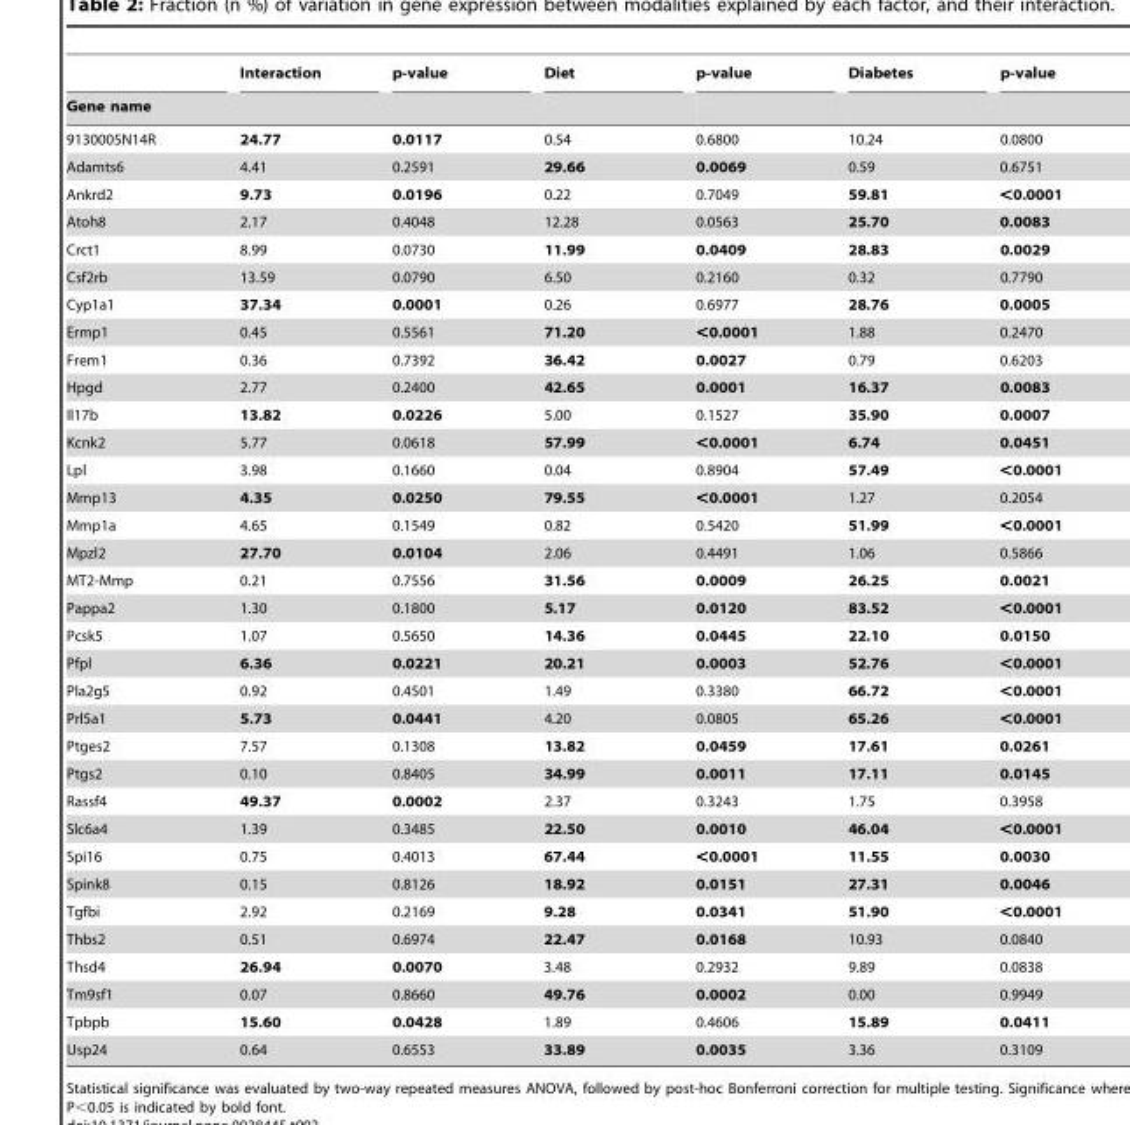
<table><thead><tr><td rowspan="2">Gene name</td><td rowspan="2">Interaction</td><td rowspan="2">p-value</td><td rowspan="2">Diet</td><td rowspan="2">p-value</td><td rowspan="2">Diabetes</td><td rowspan="2">p-value</td></tr><tr></tr></thead><tbody><tr><td>9130005N14R</td><td>24.77</td><td>0.0117</td><td>0.54</td><td>0.6800</td><td>10.24</td><td>0.0800</td></tr><tr><td>Adamts6</td><td>4.41</td><td>0.2591</td><td>29.66</td><td>0.0069</td><td>0.59</td><td>0.6751</td></tr><tr><td>Ankrd2</td><td>9.73</td><td>0.0196</td><td>0.22</td><td>0.7049</td><td>59.81</td><td>&lt;0.0001</td></tr><tr><td>Atoh8</td><td>2.17</td><td>0.4048</td><td>12.28</td><td>0.0563</td><td>25.70</td><td>0.0083</td></tr><tr><td>Crct1</td><td>8.99</td><td>0.0730</td><td>11.99</td><td>0.0409</td><td>28.83</td><td>0.0029</td></tr><tr><td>Csf2rb</td><td>13.59</td><td>0.0790</td><td>6.50</td><td>0.2160</td><td>0.32</td><td>0.7790</td></tr><tr><td>Cyp1a1</td><td>37.34</td><td>0.0001</td><td>0.26</td><td>0.6977</td><td>28.76</td><td>0.0005</td></tr><tr><td>Ermp1</td><td>0.45</td><td>0.5561</td><td>71.20</td><td>&lt;0.0001</td><td>1.88</td><td>0.2470</td></tr><tr><td>Frem1</td><td>0.36</td><td>0.7392</td><td>36.42</td><td>0.0027</td><td>0.79</td><td>0.6203</td></tr><tr><td>Hpgd</td><td>2.77</td><td>0.2400</td><td>42.65</td><td>0.0001</td><td>16.37</td><td>0.0083</td></tr><tr><td>Il17b</td><td>13.82</td><td>0.0226</td><td>5.00</td><td>0.1527</td><td>35.90</td><td>0.0007</td></tr><tr><td>Kcnk2</td><td>5.77</td><td>0.0618</td><td>57.99</td><td>&lt;0.0001</td><td>6.74</td><td>0.0451</td></tr><tr><td>Lpl</td><td>3.98</td><td>0.1660</td><td>0.04</td><td>0.8904</td><td>57.49</td><td>&lt;0.0001</td></tr><tr><td>Mmp13</td><td>4.35</td><td>0.0250</td><td>79.55</td><td>&lt;0.0001</td><td>1.27</td><td>0.2054</td></tr><tr><td>Mmp1a</td><td>4.65</td><td>0.1549</td><td>0.82</td><td>0.5420</td><td>51.99</td><td>&lt;0.0001</td></tr><tr><td>Mpzl2</td><td>27.70</td><td>0.0104</td><td>2.06</td><td>0.4491</td><td>1.06</td><td>0.5866</td></tr><tr><td>MT2-Mmp</td><td>0.21</td><td>0.7556</td><td>31.56</td><td>0.0009</td><td>26.25</td><td>0.0021</td></tr><tr><td>Pappa2</td><td>1.30</td><td>0.1800</td><td>5.17</td><td>0.0120</td><td>83.52</td><td>&lt;0.0001</td></tr><tr><td>Pcsk5</td><td>1.07</td><td>0.5650</td><td>14.36</td><td>0.0445</td><td>22.10</td><td>0.0150</td></tr><tr><td>Pfpl</td><td>6.36</td><td>0.0221</td><td>20.21</td><td>0.0003</td><td>52.76</td><td>&lt;0.0001</td></tr><tr><td>Pla2g5</td><td>0.92</td><td>0.4501</td><td>1.49</td><td>0.3380</td><td>66.72</td><td>&lt;0.0001</td></tr><tr><td>Prl5a1</td><td>5.73</td><td>0.0441</td><td>4.20</td><td>0.0805</td><td>65.26</td><td>&lt;0.0001</td></tr><tr><td>Ptges2</td><td>7.57</td><td>0.1308</td><td>13.82</td><td>0.0459</td><td>17.61</td><td>0.0261</td></tr><tr><td>Ptgs2</td><td>0.10</td><td>0.8405</td><td>34.99</td><td>0.0011</td><td>17.11</td><td>0.0145</td></tr><tr><td>Rassf4</td><td>49.37</td><td>0.0002</td><td>2.37</td><td>0.3243</td><td>1.75</td><td>0.3958</td></tr><tr><td>Slc6a4</td><td>1.39</td><td>0.3485</td><td>22.50</td><td>0.0010</td><td>46.04</td><td>&lt;0.0001</td></tr><tr><td>Spi16</td><td>0.75</td><td>0.4013</td><td>67.44</td><td>&lt;0.0001</td><td>11.55</td><td>0.0030</td></tr><tr><td>Spink8</td><td>0.15</td><td>0.8126</td><td>18.92</td><td>0.0151</td><td>27.31</td><td>0.0046</td></tr><tr><td>Tgfbi</td><td>2.92</td><td>0.2169</td><td>9.28</td><td>0.0341</td><td>51.90</td><td>&lt;0.0001</td></tr><tr><td>Thbs2</td><td>0.51</td><td>0.6974</td><td>22.47</td><td>0.0168</td><td>10.93</td><td>0.0840</td></tr><tr><td>Thsd4</td><td>26.94</td><td>0.0070</td><td>3.48</td><td>0.2932</td><td>9.89</td><td>0.0838</td></tr><tr><td>Tm9sf1</td><td>0.07</td><td>0.8660</td><td>49.76</td><td>0.0002</td><td>0.00</td><td>0.9949</td></tr><tr><td>Tpbpb</td><td>15.60</td><td>0.0428</td><td>1.89</td><td>0.4606</td><td>15.89</td><td>0.0411</td></tr><tr><td>Usp24</td><td>0.64</td><td>0.6553</td><td>33.89</td><td>0.0035</td><td>3.36</td><td>0.3109</td></tr></tbody></table>